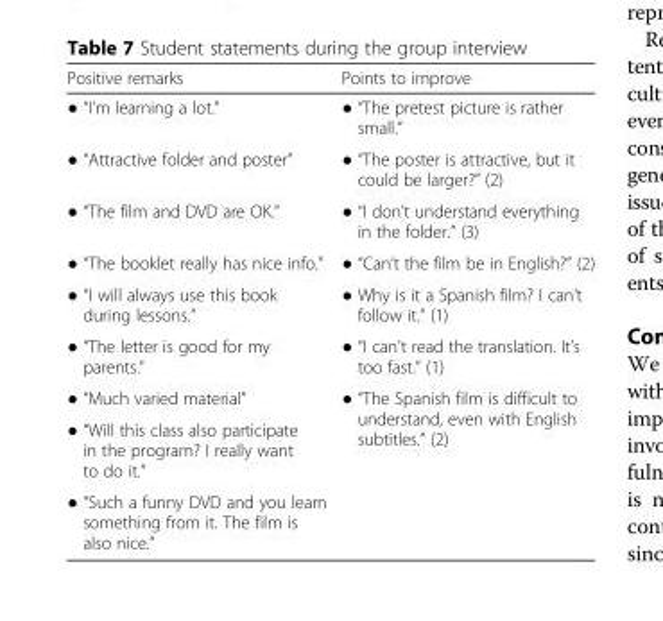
<table><thead><tr><td>Positive remarks</td><td>Points to improve</td></tr></thead><tbody><tr><td>● “I’m learning a lot.”</td><td>● “The pretest picture is rather small.”</td></tr><tr><td>● “Attractive folder and poster”</td><td>● “The poster is attractive, but it could be larger?” (2)</td></tr><tr><td>● “The film and DVD are OK.”</td><td>● “I don’t understand everything in the folder.” (3)</td></tr><tr><td>● “The booklet really has nice info.”</td><td>● “Can’t the film be in English?” (2)</td></tr><tr><td>● “I will always use this book during lessons.”</td><td>● Why is it a Spanish film? I can’t follow it.” (1)</td></tr><tr><td>● “The letter is good for my parents.”</td><td>● “I can&#x27;t read the translation. It’s too fast.” (1)</td></tr><tr><td>● “Much varied material”</td><td rowspan="3">● “The Spanish film is difficult to understand, even with English subtitles.” (2)</td></tr><tr><td>● “Will this class also participate in the program? I really want to do it.”</td></tr><tr><td>● “Such a funny DVD and you learn something from it. The film is also nice.”</td></tr></tbody></table>